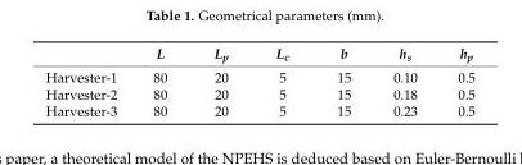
<table><thead><tr><td></td><td>L</td><td>L<sub>p</sub></td><td>L<sub>c</sub></td><td>b</td><td>h<sub>s</sub></td><td>h<sub>p</sub></td></tr></thead><tbody><tr><td>Harvester-1</td><td>80</td><td>20</td><td>5</td><td>15</td><td>0.10</td><td>0.5</td></tr><tr><td>Harvester-2</td><td>80</td><td>20</td><td>5</td><td>15</td><td>0.18</td><td>0.5</td></tr><tr><td>Harvester-3</td><td>80</td><td>20</td><td>5</td><td>15</td><td>0.23</td><td>0.5</td></tr></tbody></table>